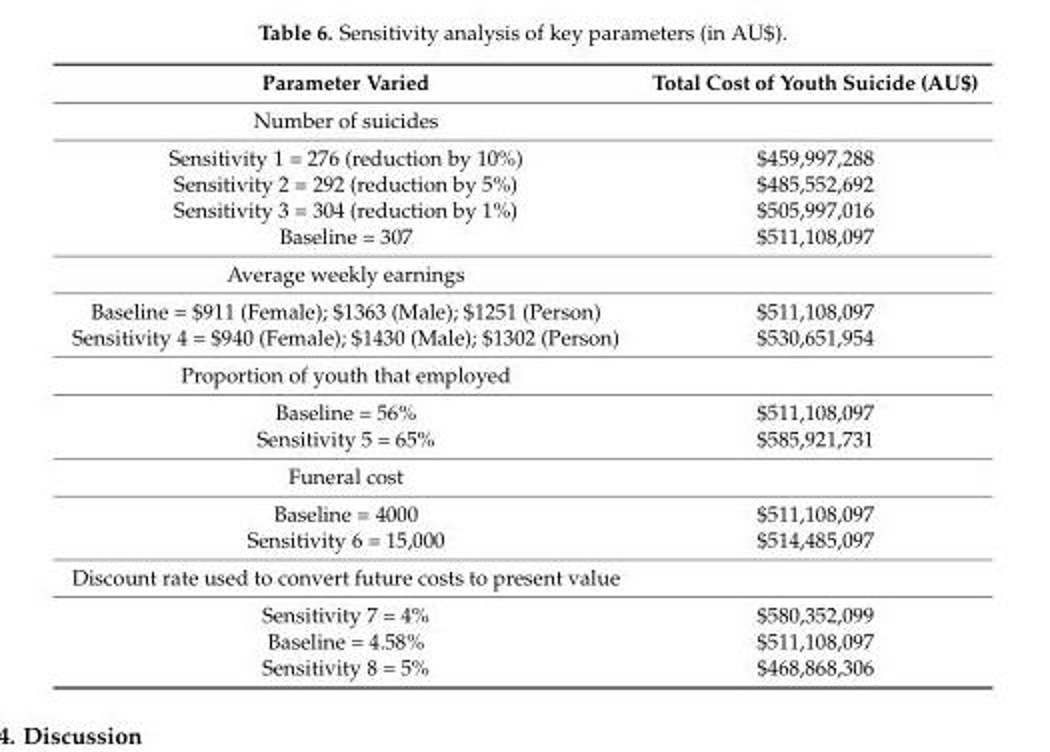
<table><thead><tr><td>Parameter Varied</td><td>Total Cost of Youth Suicide (AU$)</td></tr></thead><tbody><tr><td colspan="2">Number of suicides</td></tr><tr><td>Sensitivity 1 = 276 (reduction by 10%)</td><td>$459,997,288</td></tr><tr><td>Sensitivity 2 = 292 (reduction by 5%)</td><td>$485,552,692</td></tr><tr><td>Sensitivity 3 = 304 (reduction by 1%)</td><td>$505,997,016</td></tr><tr><td>Baseline = 307</td><td>$511,108,097</td></tr><tr><td colspan="2">Average weekly earnings</td></tr><tr><td>Baseline = $911 (Female); $1363 (Male); $1251 (Person)</td><td>$511,108,097</td></tr><tr><td>Sensitivity 4 = $940 (Female); $1430 (Male); $1302 (Person)</td><td>$530,651,954</td></tr><tr><td colspan="2">Proportion of youth that employed</td></tr><tr><td>Baseline = 56%</td><td>$511,108,097</td></tr><tr><td>Sensitivity 5 = 65%</td><td>$585,921,731</td></tr><tr><td colspan="2">Funeral cost</td></tr><tr><td>Baseline = 4000</td><td>$511,108,097</td></tr><tr><td>Sensitivity 6 = 15,000</td><td>$514,485,097</td></tr><tr><td colspan="2">Discount rate used to convert future costs to present value</td></tr><tr><td>Sensitivity 7 = 4%</td><td>$580,352,099</td></tr><tr><td>Baseline = 4.58%</td><td>$511,108,097</td></tr><tr><td>Sensitivity 8 = 5%</td><td>$468,868,306</td></tr></tbody></table>